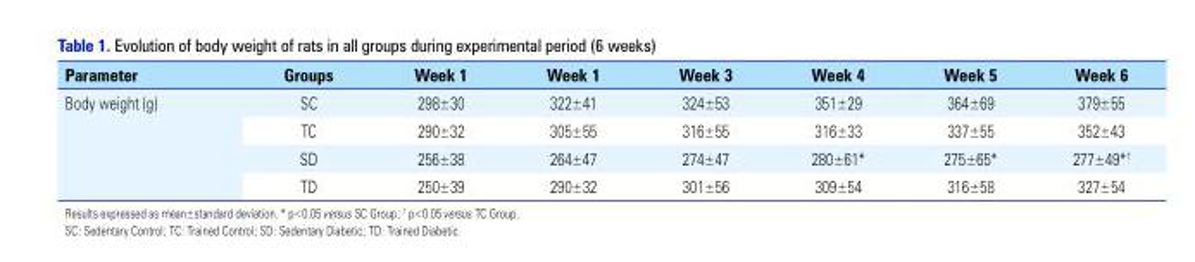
<table><thead><tr><td>Parameter</td><td>Groups</td><td>Week 1</td><td>Week 1</td><td>Week 3</td><td>Week 4</td><td>Week 5</td><td>Week 6</td></tr></thead><tbody><tr><td rowspan="4">Body weight (g)</td><td>SC</td><td>298±30</td><td>322±41</td><td>324±53</td><td>351±29</td><td>364±69</td><td>379±55</td></tr><tr><td>TC</td><td>290±32</td><td>305±55</td><td>316±55</td><td>316±33</td><td>337±55</td><td>352±43</td></tr><tr><td>SD</td><td>256±38</td><td>264±47</td><td>274±47</td><td>280±61*</td><td>275±65*</td><td>277±49*<sup>†</sup></td></tr><tr><td>TD</td><td>250±39</td><td>290±32</td><td>301±56</td><td>309±54</td><td>316±58</td><td>327±54</td></tr></tbody></table>